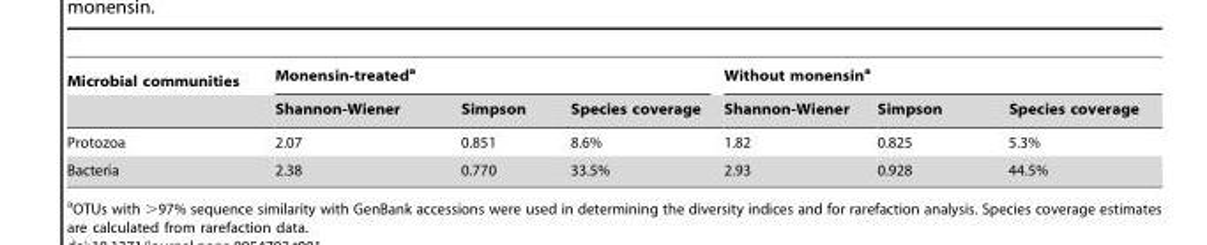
<table><thead><tr><td rowspan="2">Microbial communities</td><td colspan="3">Monensin-treated<sup>a</sup></td><td colspan="3">Without monensin<sup>a</sup></td></tr><tr><td>Shannon-Wiener</td><td>Simpson</td><td>Species coverage</td><td>Shannon-Wiener</td><td>Simpson</td><td>Species coverage</td></tr></thead><tbody><tr><td>Protozoa</td><td>2.07</td><td>0.851</td><td>8.6%</td><td>1.82</td><td>0.825</td><td>5.3%</td></tr><tr><td>Bacteria</td><td>2.38</td><td>0.770</td><td>33.5%</td><td>2.93</td><td>0.928</td><td>44.5%</td></tr></tbody></table>